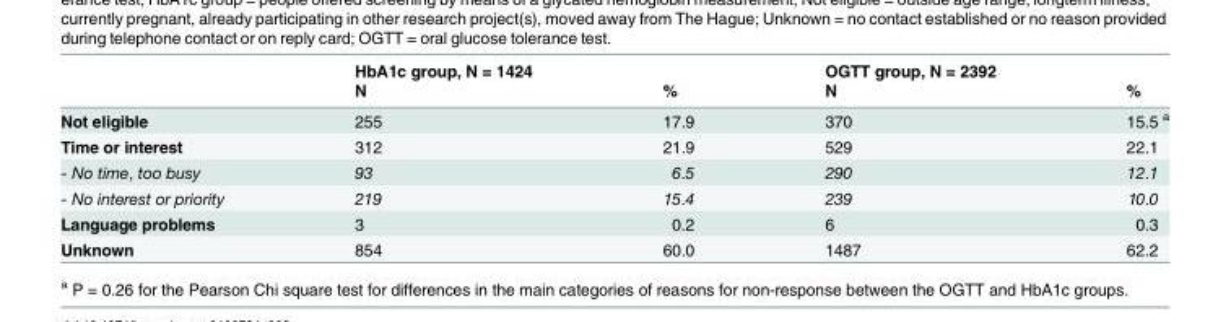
<table><thead><tr><td rowspan="2"></td><td rowspan="2">HbA1c group, N = 1424 N</td><td rowspan="2">%</td><td rowspan="2">OGTT group, N = 2392 N</td><td rowspan="2">%</td></tr><tr></tr></thead><tbody><tr><td>Not eligible</td><td>255</td><td>17.9</td><td>370</td><td>15.5 <sup>a</sup></td></tr><tr><td>Time or interest</td><td>312</td><td>21.9</td><td>529</td><td>22.1</td></tr><tr><td>- No time, too busy</td><td>93</td><td>6.5</td><td>290</td><td>12.1</td></tr><tr><td>- No interest or priority</td><td>219</td><td>15.4</td><td>239</td><td>10.0</td></tr><tr><td>Language problems</td><td>3</td><td>0.2</td><td>6</td><td>0.3</td></tr><tr><td>Unknown</td><td>854</td><td>60.0</td><td>1487</td><td>62.2</td></tr></tbody></table>